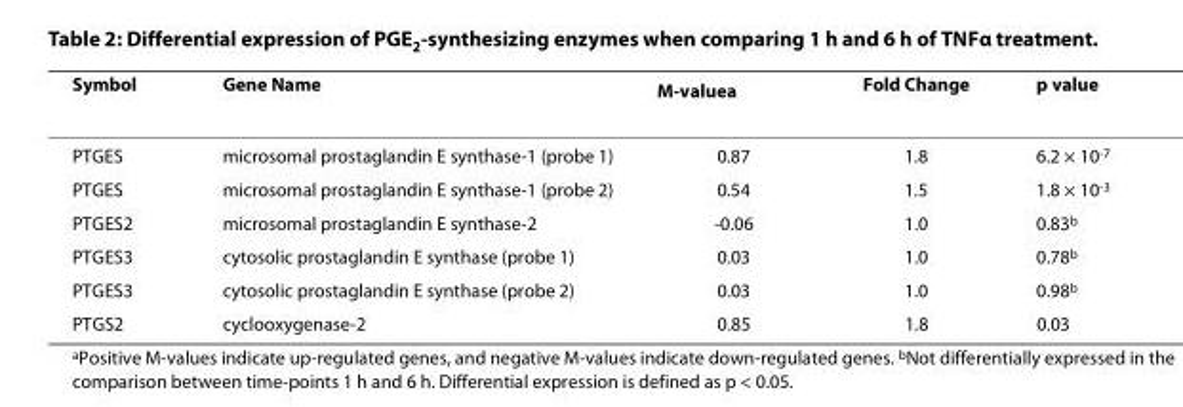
<table><thead><tr><td>Symbol</td><td>Gene Name</td><td>M-value<sup>a</sup></td><td>Fold Change</td><td>p value</td></tr></thead><tbody><tr><td>PTGES</td><td>microsomal prostaglandin E synthase-1 (probe 1)</td><td>0.87</td><td>1.8</td><td>6.2 × 10<sup>-7</sup></td></tr><tr><td>PTGES</td><td>microsomal prostaglandin E synthase-1 (probe 2)</td><td>0.54</td><td>1.5</td><td>1.8 × 10<sup>-3</sup></td></tr><tr><td>PTGES2</td><td>microsomal prostaglandin E synthase-2</td><td>-0.06</td><td>1.0</td><td>0.83<sup>b</sup></td></tr><tr><td>PTGES3</td><td>cytosolic prostaglandin E synthase (probe 1)</td><td>0.03</td><td>1.0</td><td>0.78<sup>b</sup></td></tr><tr><td>PTGES3</td><td>cytosolic prostaglandin E synthase (probe 2)</td><td>0.03</td><td>1.0</td><td>0.98<sup>b</sup></td></tr><tr><td>PTGS2</td><td>cyclooxygenase-2</td><td>0.85</td><td>1.8</td><td>0.03</td></tr></tbody></table>